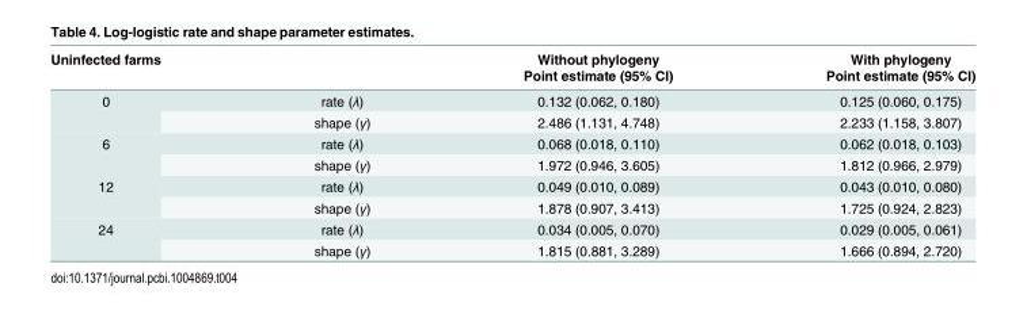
<table><thead><tr><td rowspan="2">Uninfected farms</td><td rowspan="2"></td><td rowspan="2">Without phylogeny Point estimate (95% CI)</td><td rowspan="2">With phylogeny Point estimate (95% CI)</td></tr><tr></tr></thead><tbody><tr><td rowspan="2">0</td><td>rate (λ)</td><td>0.132 (0.062, 0.180)</td><td>0.125 (0.060, 0.175)</td></tr><tr><td>shape (γ)</td><td>2.486 (1.131, 4.748)</td><td>2.233 (1.158, 3.807)</td></tr><tr><td rowspan="2">6</td><td>rate (λ)</td><td>0.068 (0.018, 0.110)</td><td>0.062 (0.018, 0.103)</td></tr><tr><td>shape (γ)</td><td>1.972 (0.946, 3.605)</td><td>1.812 (0.966, 2.979)</td></tr><tr><td rowspan="2">12</td><td>rate (λ)</td><td>0.049 (0.010, 0.089)</td><td>0.043 (0.010, 0.080)</td></tr><tr><td>shape (γ)</td><td>1.878 (0.907, 3.413)</td><td>1.725 (0.924, 2.823)</td></tr><tr><td rowspan="2">24</td><td>rate (λ)</td><td>0.034 (0.005, 0.070)</td><td>0.029 (0.005, 0.061)</td></tr><tr><td>shape (γ)</td><td>1.815 (0.881, 3.289)</td><td>1.666 (0.894, 2.720)</td></tr></tbody></table>